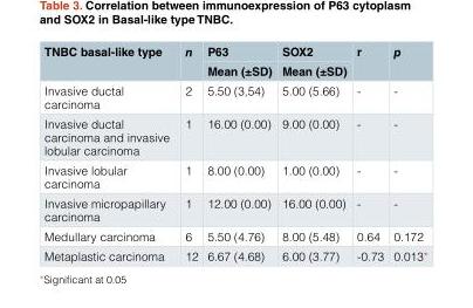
<table><thead><tr><td rowspan="2">TNBC basal-like type</td><td rowspan="2">n</td><td rowspan="2">P63 Mean (±SD)</td><td rowspan="2">SOX2 Mean (±SD)</td><td rowspan="2">r</td><td rowspan="2">p</td></tr><tr></tr></thead><tbody><tr><td>Invasive ductal carcinoma</td><td>2</td><td>5.50 (3,54)</td><td>5.00 (5.66)</td><td>-</td><td>-</td></tr><tr><td>Invasive ductal carcinoma and invasive lobular carcinoma</td><td>1</td><td>16.00 (0.00)</td><td>9.00 (0.00)</td><td>-</td><td>-</td></tr><tr><td>Invasive lobular carcinoma</td><td>1</td><td>8.00 (0.00)</td><td>1.00 (0.00)</td><td>-</td><td>-</td></tr><tr><td>Invasive micropapillary carcinoma</td><td>1</td><td>12.00 (0.00)</td><td>16.00 (0.00)</td><td>-</td><td>-</td></tr><tr><td>Medullary carcinoma</td><td>6</td><td>5.50 (4.76)</td><td>8.00 (5.48)</td><td>0.64</td><td>0.172</td></tr><tr><td>Metaplastic carcinoma</td><td>12</td><td>6.67 (4.68)</td><td>6.00 (3.77)</td><td>-0.73</td><td>0.013*</td></tr></tbody></table>